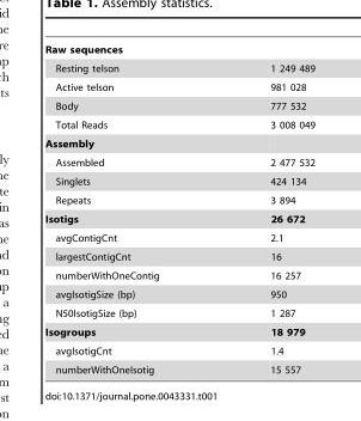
<table><thead><tr><td>Raw sequences</td><td></td></tr></thead><tbody><tr><td>Resting telson</td><td>1 249 489</td></tr><tr><td>Active telson</td><td>981 028</td></tr><tr><td>Body</td><td>777 532</td></tr><tr><td>Total Reads</td><td>3 008 049</td></tr><tr><td colspan="2">Assembly</td></tr><tr><td>Assembled</td><td>2 477 532</td></tr><tr><td>Singlets</td><td>424 134</td></tr><tr><td>Repeats</td><td>3 894</td></tr><tr><td>Isotigs</td><td>26 672</td></tr><tr><td>avgContigCnt</td><td>2.1</td></tr><tr><td>largestContigCnt</td><td>16</td></tr><tr><td>numberWithOneContig</td><td>16 257</td></tr><tr><td>avgIsotigSize (bp)</td><td>950</td></tr><tr><td>N50IsotigSize (bp)</td><td>1 287</td></tr><tr><td>Isogroups</td><td>18 979</td></tr><tr><td>avgIsotigCnt</td><td>1.4</td></tr><tr><td>numberWithOneIsotig</td><td>15 557</td></tr></tbody></table>